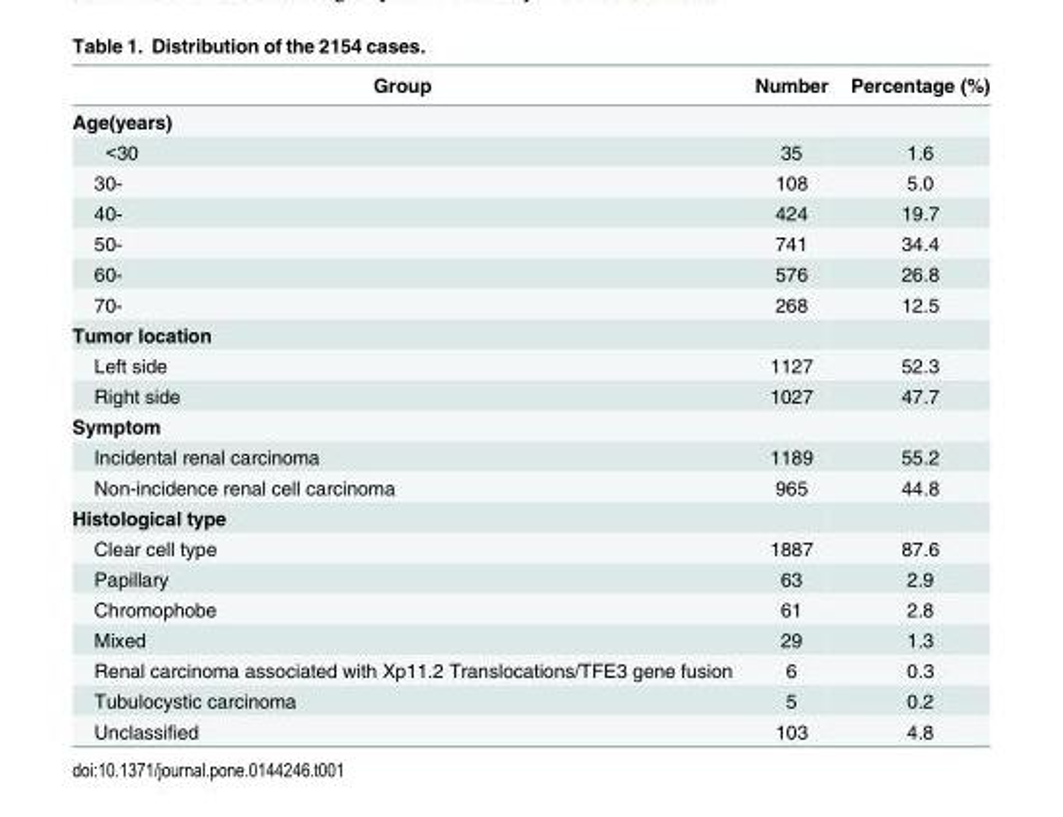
<table><thead><tr><td>Group</td><td>Number</td><td>Percentage (%)</td></tr></thead><tbody><tr><td colspan="3">Age(years)</td></tr><tr><td>&lt;30</td><td>35</td><td>1.6</td></tr><tr><td>30-</td><td>108</td><td>5.0</td></tr><tr><td>40-</td><td>424</td><td>19.7</td></tr><tr><td>50-</td><td>741</td><td>34.4</td></tr><tr><td>60-</td><td>576</td><td>26.8</td></tr><tr><td>70-</td><td>268</td><td>12.5</td></tr><tr><td colspan="3">Tumor location</td></tr><tr><td>Left side</td><td>1127</td><td>52.3</td></tr><tr><td>Right side</td><td>1027</td><td>47.7</td></tr><tr><td colspan="3">Symptom</td></tr><tr><td>Incidental renal carcinoma</td><td>1189</td><td>55.2</td></tr><tr><td>Non-incidence renal cell carcinoma</td><td>965</td><td>44.8</td></tr><tr><td colspan="3">Histological type</td></tr><tr><td>Clear cell type</td><td>1887</td><td>87.6</td></tr><tr><td>Papillary</td><td>63</td><td>2.9</td></tr><tr><td>Chromophobe</td><td>61</td><td>2.8</td></tr><tr><td>Mixed</td><td>29</td><td>1.3</td></tr><tr><td>Renal carcinoma associated with Xp11.2 Translocations/TFE3 gene fusion</td><td>6</td><td>0.3</td></tr><tr><td>Tubulocystic carcinoma</td><td>5</td><td>0.2</td></tr><tr><td>Unclassified</td><td>103</td><td>4.8</td></tr></tbody></table>